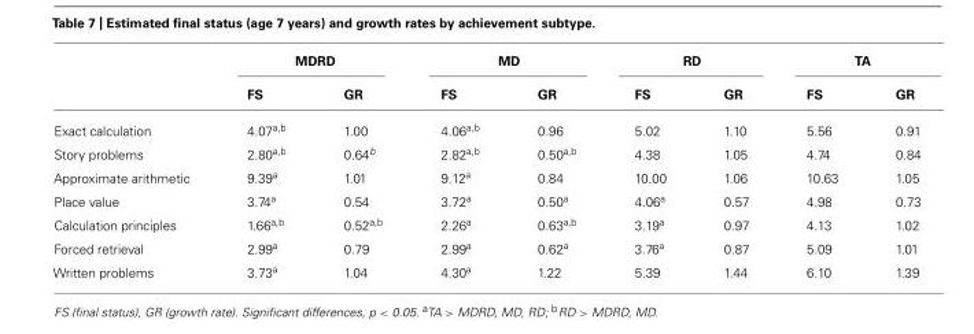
<table><thead><tr><td rowspan="2"></td><td colspan="2">MDRD</td><td colspan="2">MD</td><td colspan="2">RD</td><td colspan="2">TA</td></tr><tr><td>FS</td><td>GR</td><td>FS</td><td>GR</td><td>FS</td><td>GR</td><td>FS</td><td>GR</td></tr></thead><tbody><tr><td>Exact calculation</td><td>4.07<sup>a,b</sup></td><td>1.00</td><td>4.06<sup>a,b</sup></td><td>0.96</td><td>5.02</td><td>1.10</td><td>5.56</td><td>0.91</td></tr><tr><td>Story problems</td><td>2.80<sup>a,b</sup></td><td>0.64<sup>b</sup></td><td>2.82<sup>a,b</sup></td><td>0.50<sup>a,b</sup></td><td>4.38</td><td>1.05</td><td>4.74</td><td>0.84</td></tr><tr><td>Approximate arithmetic</td><td>9.39<sup>a</sup></td><td>1.01</td><td>9.12<sup>a</sup></td><td>0.84</td><td>10.00</td><td>1.06</td><td>10.63</td><td>1.05</td></tr><tr><td>Place value</td><td>3.74<sup>a</sup></td><td>0.54</td><td>3.72<sup>a</sup></td><td>0.50<sup>a</sup></td><td>4.06<sup>a</sup></td><td>0.57</td><td>4.98</td><td>0.73</td></tr><tr><td>Calculation principles</td><td>1.66<sup>a,b</sup></td><td>0.52<sup>a,b</sup></td><td>2.26<sup>a</sup></td><td>0.63<sup>a,b</sup></td><td>3.19<sup>a</sup></td><td>0.97</td><td>4.13</td><td>1.02</td></tr><tr><td>Forced retrieval</td><td>2.99<sup>a</sup></td><td>0.79</td><td>2.99<sup>a</sup></td><td>0.62<sup>a</sup></td><td>3.76<sup>a</sup></td><td>0.87</td><td>5.09</td><td>1.01</td></tr><tr><td>Written problems</td><td>3.73<sup>a</sup></td><td>1.04</td><td>4.30<sup>a</sup></td><td>1.22</td><td>5.39</td><td>1.44</td><td>6.10</td><td>1.39</td></tr></tbody></table>